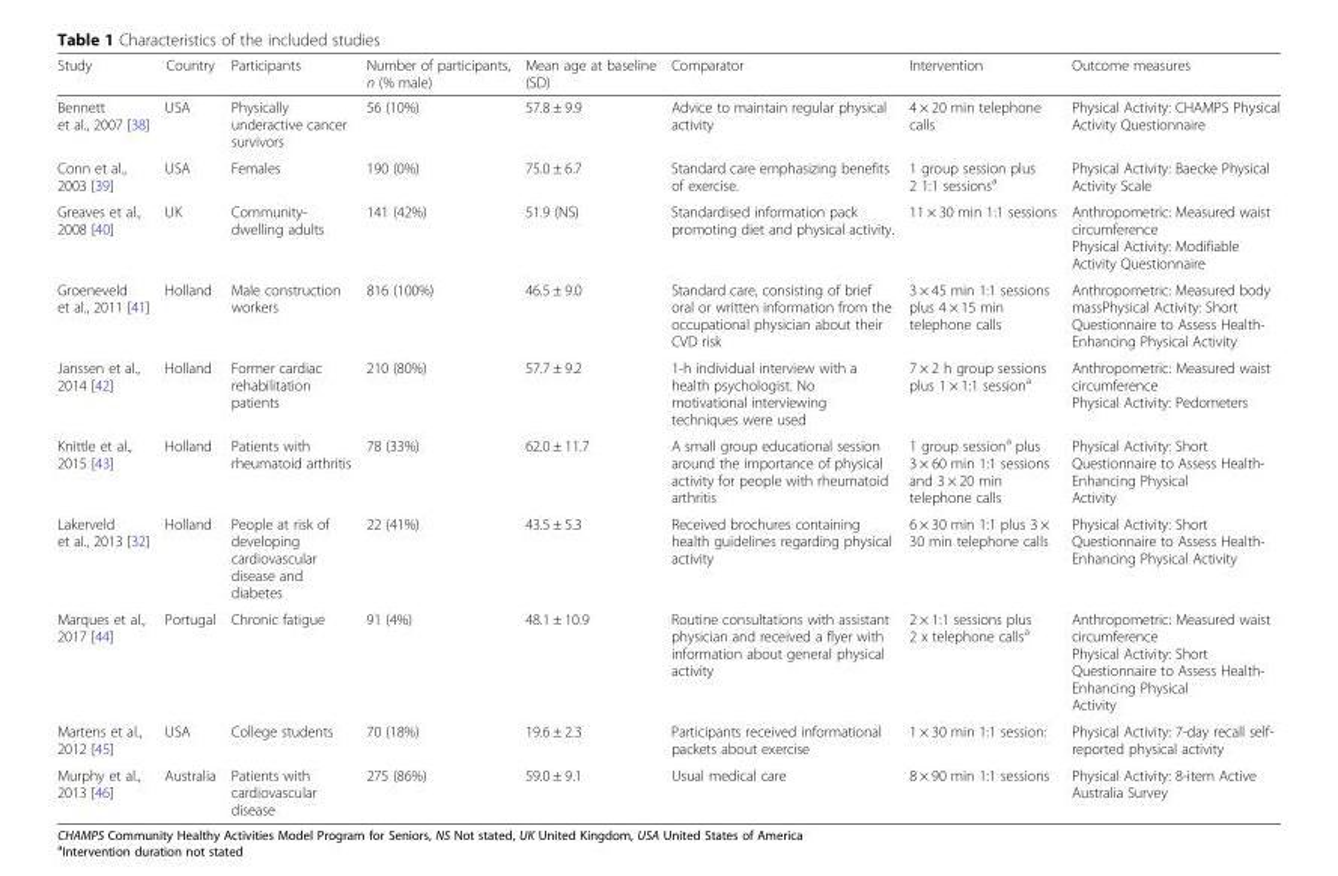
<table><thead><tr><td>Study</td><td>Country</td><td>Participants</td><td>Number of participants, n (% male)</td><td>Mean age at baseline (SD)</td><td>Comparator</td><td>Intervention</td><td>Outcome measures</td></tr></thead><tbody><tr><td>Bennett et al., 2007 [38]</td><td>USA</td><td>Physically underactive cancer survivors</td><td>56 (10%)</td><td>57.8 ± 9.9</td><td>Advice to maintain regular physical activity</td><td>4 × 20 min telephone calls</td><td>Physical Activity: CHAMPS Physical Activity Questionnaire</td></tr><tr><td>Conn et al., 2003 [39]</td><td>USA</td><td>Females</td><td>190 (0%)</td><td>75.0 ± 6.7</td><td>Standard care emphasizing benefits of exercise.</td><td>1 group session plus 2 1:1 sessions<sup>a</sup></td><td>Physical Activity: Baecke Physical Activity Scale</td></tr><tr><td>Greaves et al., 2008 [40]</td><td>UK</td><td>Community- dwelling adults</td><td>141 (42%)</td><td>51.9 (NS)</td><td>Standardised information pack promoting diet and physical activity.</td><td>11 × 30 min 1:1 sessions</td><td>Anthropometric: Measured waist circumference Physical Activity: Modifiable Activity Questionnaire</td></tr><tr><td>Groeneveld et al., 2011 [41]</td><td>Holland</td><td>Male construction workers</td><td>816 (100%)</td><td>46.5 ± 9.0</td><td>Standard care, consisting of brief oral or written information from the occupational physician about their CVD risk</td><td>3 × 45 min 1:1 sessions plus 4 × 15 min telephone calls</td><td>Anthropometric: Measured body massPhysical Activity: Short Questionnaire to Assess Health- Enhancing Physical Activity</td></tr><tr><td>Janssen et al., 2014 [42]</td><td>Holland</td><td>Former cardiac rehabilitation patients</td><td>210 (80%)</td><td>57.7 ± 9.2</td><td>1-h individual interview with a health psychologist. No motivational interviewing techniques were used</td><td>7 × 2 h group sessions plus 1 × 1:1 session<sup>a</sup></td><td>Anthropometric: Measured waist circumference Physical Activity: Pedometers</td></tr><tr><td>Knittle et al., 2015 [43]</td><td>Holland</td><td>Patients with rheumatoid arthritis</td><td>78 (33%)</td><td>62.0 ± 11.7</td><td>A small group educational session around the importance of physical activity for people with rheumatoid arthritis</td><td>1 group session<sup>a</sup> plus 3 × 60 min 1:1 sessions and 3 × 20 min telephone calls</td><td>Physical Activity: Short Questionnaire to Assess Health- Enhancing Physical Activity</td></tr><tr><td>Lakerveld et al., 2013 [32]</td><td>Holland</td><td>People at risk of developing cardiovascular disease and diabetes</td><td>22 (41%)</td><td>43.5 ± 5.3</td><td>Received brochures containing health guidelines regarding physical activity</td><td>6 × 30 min 1:1 plus 3 × 30 min telephone calls</td><td>Physical Activity: Short Questionnaire to Assess Health- Enhancing Physical Activity</td></tr><tr><td>Marques et al., 2017 [44]</td><td>Portugal</td><td>Chronic fatigue</td><td>91 (4%)</td><td>48.1 ± 10.9</td><td>Routine consultations with assistant physician and received a flyer with information about general physical activity</td><td>2 × 1:1 sessions plus 2 x telephone calls<sup>a</sup></td><td>Anthropometric: Measured waist circumference Physical Activity: Short Questionnaire to Assess Health- Enhancing Physical Activity</td></tr><tr><td>Martens et al., 2012 [45]</td><td>USA</td><td>College students</td><td>70 (18%)</td><td>19.6 ± 2.3</td><td>Participants received informational packets about exercise</td><td>1 × 30 min 1:1 session:</td><td>Physical Activity: 7-day recall self- reported physical activity</td></tr><tr><td>Murphy et al., 2013 [46]</td><td>Australia</td><td>Patients with cardiovascular disease</td><td>275 (86%)</td><td>59.0 ± 9.1</td><td>Usual medical care</td><td>8 × 90 min 1:1 sessions</td><td>Physical Activity: 8-item Active Australia Survey</td></tr></tbody></table>